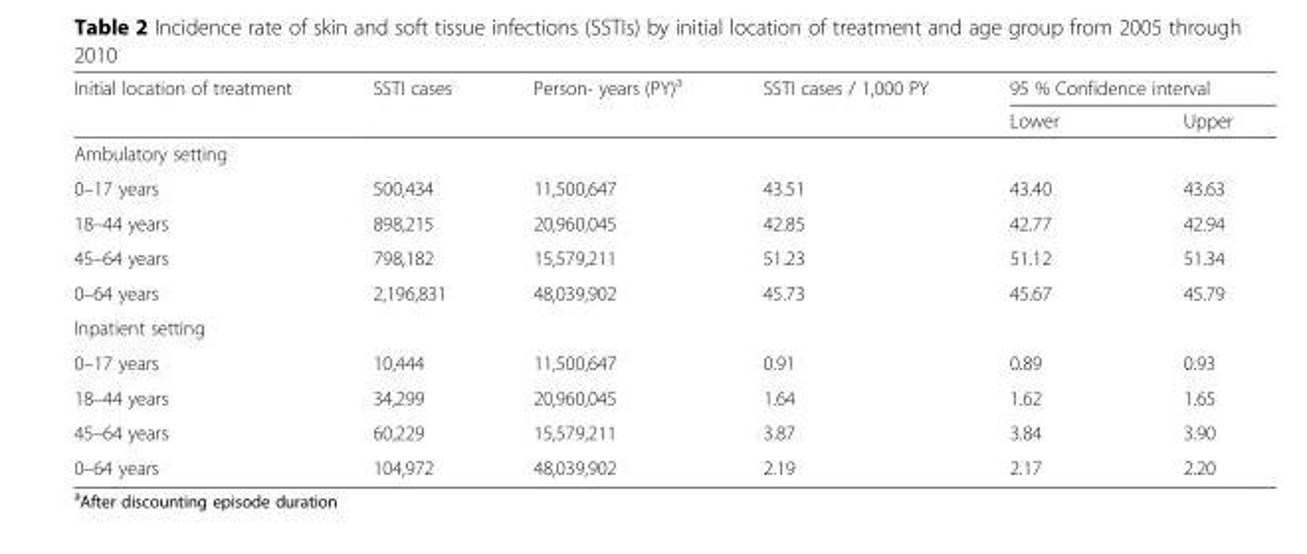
<table><thead><tr><td rowspan="2">Initial location of treatment</td><td rowspan="2">SSTI cases</td><td rowspan="2">Person- years (PY)<sup>a</sup></td><td rowspan="2">SSTI cases / 1,000 PY</td><td colspan="2">95 % Confidence interval</td></tr><tr><td>Lower</td><td>Upper</td></tr></thead><tbody><tr><td colspan="6">Ambulatory setting</td></tr><tr><td>0–17 years</td><td>500,434</td><td>11,500,647</td><td>43.51</td><td>43.40</td><td>43.63</td></tr><tr><td>18–44 years</td><td>898,215</td><td>20,960,045</td><td>42.85</td><td>42.77</td><td>42.94</td></tr><tr><td>45–64 years</td><td>798,182</td><td>15,579,211</td><td>51.23</td><td>51.12</td><td>51.34</td></tr><tr><td>0–64 years</td><td>2,196,831</td><td>48,039,902</td><td>45.73</td><td>45.67</td><td>45.79</td></tr><tr><td colspan="6">Inpatient setting</td></tr><tr><td>0–17 years</td><td>10,444</td><td>11,500,647</td><td>0.91</td><td>0.89</td><td>0.93</td></tr><tr><td>18–44 years</td><td>34,299</td><td>20,960,045</td><td>1.64</td><td>1.62</td><td>1.65</td></tr><tr><td>45–64 years</td><td>60,229</td><td>15,579,211</td><td>3.87</td><td>3.84</td><td>3.90</td></tr><tr><td>0–64 years</td><td>104,972</td><td>48,039,902</td><td>2.19</td><td>2.17</td><td>2.20</td></tr></tbody></table>